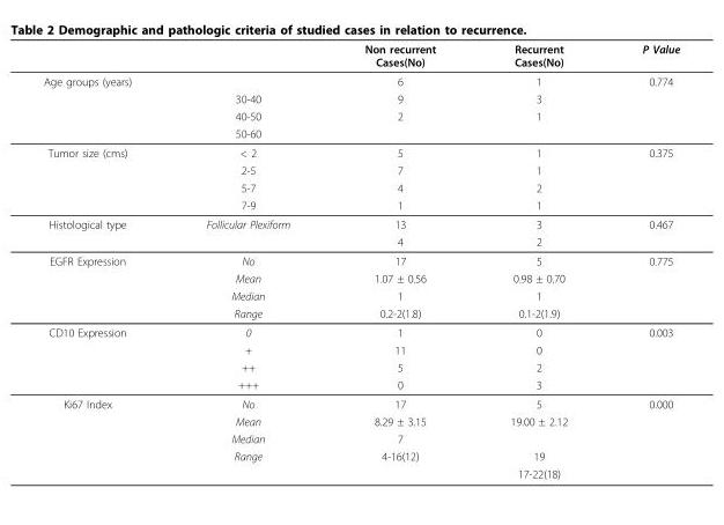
<table><thead><tr><td></td><td></td><td>Non recurrent Cases(No)</td><td>Recurrent Cases(No)</td><td>P Value</td></tr></thead><tbody><tr><td rowspan="4">Age groups (years)</td><td></td><td>6</td><td>1</td><td>0.774</td></tr><tr><td>30-40</td><td>9</td><td>3</td><td></td></tr><tr><td>40-50</td><td>2</td><td>1</td><td></td></tr><tr><td>50-60</td><td></td><td></td><td></td></tr><tr><td rowspan="4">Tumor size (cms)</td><td>&lt; 2</td><td>5</td><td>1</td><td>0.375</td></tr><tr><td>2-5</td><td>7</td><td>1</td><td></td></tr><tr><td>5-7</td><td>4</td><td>2</td><td></td></tr><tr><td>7-9</td><td>1</td><td>1</td><td></td></tr><tr><td rowspan="2">Histological type</td><td>Follicular Plexiform</td><td>13</td><td>3</td><td>0.467</td></tr><tr><td></td><td>4</td><td>2</td><td></td></tr><tr><td rowspan="4">EGFR Expression</td><td>No</td><td>17</td><td>5</td><td>0.775</td></tr><tr><td>Mean</td><td>1.07 ± 0.56</td><td>0.98 ± 0.70</td><td></td></tr><tr><td>Median</td><td>1</td><td>1</td><td></td></tr><tr><td>Range</td><td>0.2-2(1.8)</td><td>0.1-2(1.9)</td><td></td></tr><tr><td rowspan="4">CD10 Expression</td><td>0</td><td>1</td><td>0</td><td>0.003</td></tr><tr><td>+</td><td>11</td><td>0</td><td></td></tr><tr><td>++</td><td>5</td><td>2</td><td></td></tr><tr><td>+++</td><td>0</td><td>3</td><td></td></tr><tr><td rowspan="5">Ki67 Index</td><td>No</td><td>17</td><td>5</td><td>0.000</td></tr><tr><td>Mean</td><td>8.29 ± 3.15</td><td>19.00 ± 2.12</td><td></td></tr><tr><td>Median</td><td>7</td><td></td><td></td></tr><tr><td>Range</td><td>4-16(12)</td><td>19</td><td></td></tr><tr><td></td><td></td><td>17-22(18)</td><td></td></tr></tbody></table>